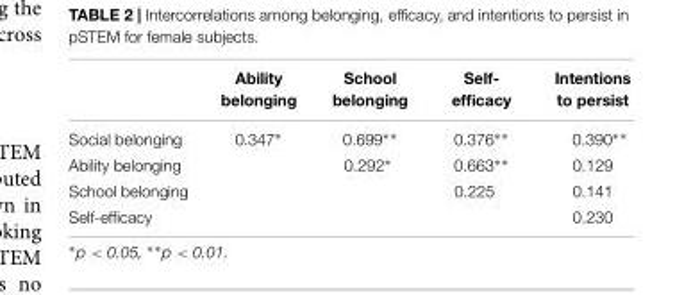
<table><thead><tr><td></td><td>Ability belonging</td><td>School belonging</td><td>Self- efficacy</td><td>Intentions to persist</td></tr></thead><tbody><tr><td>Social belonging</td><td>0.347∗</td><td>0.699∗∗</td><td>0.376∗∗</td><td>0.390∗∗</td></tr><tr><td>Ability belonging</td><td></td><td>0.292∗</td><td>0.663∗∗</td><td>0.129</td></tr><tr><td>School belonging</td><td></td><td></td><td>0.225</td><td>0.141</td></tr><tr><td>Self-efficacy</td><td></td><td></td><td></td><td>0.230</td></tr></tbody></table>